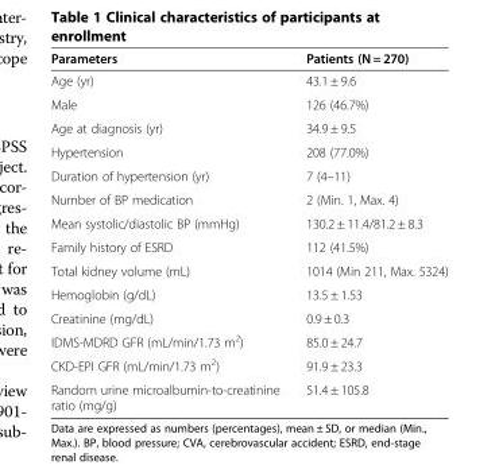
<table><thead><tr><td>Parameters</td><td>Patients (N = 270)</td></tr></thead><tbody><tr><td>Age (yr)</td><td>43.1 ± 9.6</td></tr><tr><td>Male</td><td>126 (46.7%)</td></tr><tr><td>Age at diagnosis (yr)</td><td>34.9 ± 9.5</td></tr><tr><td>Hypertension</td><td>208 (77.0%)</td></tr><tr><td>Duration of hypertension (yr)</td><td>7 (4–11)</td></tr><tr><td>Number of BP medication</td><td>2 (Min. 1, Max. 4)</td></tr><tr><td>Mean systolic/diastolic BP (mmHg)</td><td>130.2 ± 11.4/81.2 ± 8.3</td></tr><tr><td>Family history of ESRD</td><td>112 (41.5%)</td></tr><tr><td>Total kidney volume (mL)</td><td>1014 (Min 211, Max. 5324)</td></tr><tr><td>Hemoglobin (g/dL)</td><td>13.5 ± 1.53</td></tr><tr><td>Creatinine (mg/dL)</td><td>0.9 ± 0.3</td></tr><tr><td>IDMS-MDRD GFR (mL/min/1.73 m<sup>2</sup>)</td><td>85.0 ± 24.7</td></tr><tr><td>CKD-EPI GFR (mL/min/1.73 m<sup>2</sup>)</td><td>91.9 ± 23.3</td></tr><tr><td>Random urine microalbumin-to-creatinine ratio (mg/g)</td><td>51.4 ± 105.8</td></tr></tbody></table>